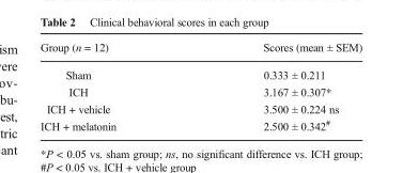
<table><thead><tr><td>Group (n = 12)</td><td>Scores (mean ± SEM)</td></tr></thead><tbody><tr><td>Sham</td><td>0.333 ± 0.211</td></tr><tr><td>ICH</td><td>3.167 ± 0.307*</td></tr><tr><td>ICH + vehicle</td><td>3.500 ± 0.224 ns</td></tr><tr><td>ICH + melatonin</td><td>2.500 ± 0.342<sup>#</sup></td></tr></tbody></table>